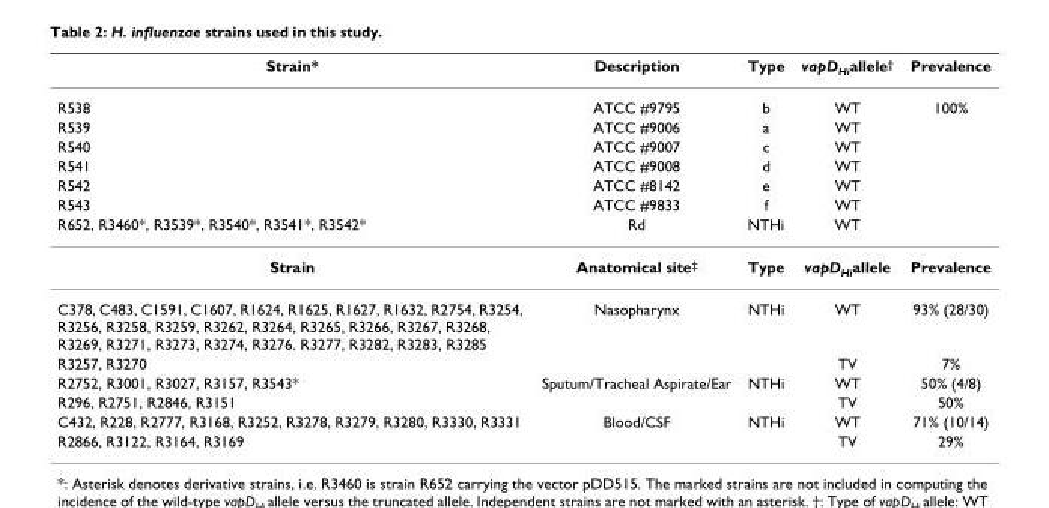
<table><thead><tr><td>Strain*</td><td>Description</td><td>Type</td><td>vapDHiallele†</td><td>Prevalence</td></tr></thead><tbody><tr><td>R538</td><td>ATCC #9795</td><td>b</td><td>WT</td><td>100%</td></tr><tr><td>R539</td><td>ATCC #9006</td><td>a</td><td>WT</td><td></td></tr><tr><td>R540</td><td>ATCC #9007</td><td>c</td><td>WT</td><td></td></tr><tr><td>R541</td><td>ATCC #9008</td><td>d</td><td>WT</td><td></td></tr><tr><td>R542</td><td>ATCC #8142</td><td>e</td><td>WT</td><td></td></tr><tr><td>R543</td><td>ATCC #9833</td><td>f</td><td>WT</td><td></td></tr><tr><td>R652, R3460*, R3539*, R3540*, R3541*, R3542*</td><td>Rd</td><td>NTHi</td><td>WT</td><td></td></tr><tr><td>Strain</td><td>Anatomical site‡</td><td>Type</td><td>vapDHiallele</td><td>Prevalence</td></tr><tr><td>C378, C483, C1591, C1607, R1624, R1625, R1627, R1632, R2754, R3254, R3256, R3258, R3259, R3262, R3264, R3265, R3266, R3267, R3268, R3269, R3271, R3273, R3274, R3276. R3277, R3282, R3283, R3285</td><td>Nasopharynx</td><td>NTHi</td><td>WT</td><td>93% (28/30)</td></tr><tr><td>R3257, R3270</td><td></td><td></td><td>TV</td><td>7%</td></tr><tr><td>R2752, R3001, R3027, R3157, R3543*</td><td>Sputum/Tracheal Aspirate/Ear</td><td>NTHi</td><td>WT</td><td>50% (4/8)</td></tr><tr><td>R296, R2751, R2846, R3151</td><td></td><td></td><td>TV</td><td>50%</td></tr><tr><td>C432, R228, R2777, R3168, R3252, R3278, R3279, R3280, R3330, R3331</td><td>Blood/CSF</td><td>NTHi</td><td>WT</td><td>71% (10/14)</td></tr><tr><td>R2866, R3122, R3164, R3169</td><td></td><td></td><td>TV</td><td>29%</td></tr></tbody></table>